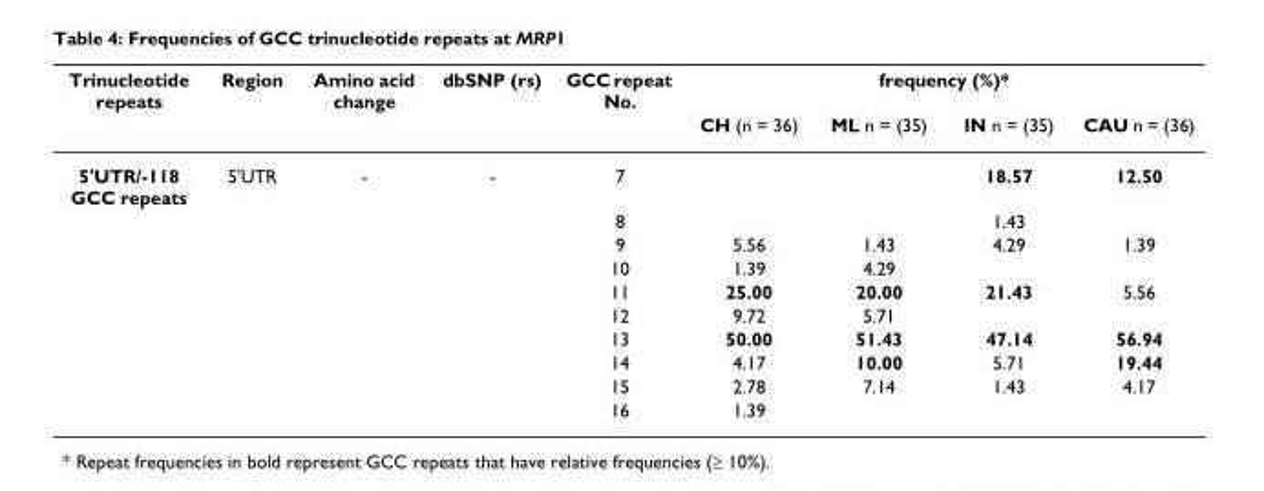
<table><thead><tr><td rowspan="2">Trinucleotide repeats</td><td rowspan="2">Region</td><td rowspan="2">Amino acid change</td><td rowspan="2">dbSNP (rs)</td><td rowspan="2">GCC repeat No.</td><td colspan="4">frequency (%)*</td></tr><tr><td>CH (n = 36)</td><td>ML n = (35)</td><td>IN n = (35)</td><td>CAU n = (36)</td></tr></thead><tbody><tr><td rowspan="10">5&#x27;UTR/-118 GCC repeats</td><td>5&#x27;UTR</td><td>-</td><td>-</td><td>7</td><td></td><td></td><td>18.57</td><td>12.50</td></tr><tr><td></td><td></td><td></td><td>8</td><td></td><td></td><td>1.43</td><td></td></tr><tr><td></td><td></td><td></td><td>9</td><td>5.56</td><td>1.43</td><td>4.29</td><td>1.39</td></tr><tr><td></td><td></td><td></td><td>10</td><td>1.39</td><td>4.29</td><td></td><td></td></tr><tr><td></td><td></td><td></td><td>11</td><td>25.00</td><td>20.00</td><td>21.43</td><td>5.56</td></tr><tr><td></td><td></td><td></td><td>12</td><td>9.72</td><td>5.71</td><td></td><td></td></tr><tr><td></td><td></td><td></td><td>13</td><td>50.00</td><td>51.43</td><td>47.14</td><td>56.94</td></tr><tr><td></td><td></td><td></td><td>14</td><td>4.17</td><td>10.00</td><td>5.71</td><td>19.44</td></tr><tr><td></td><td></td><td></td><td>15</td><td>2.78</td><td>7.14</td><td>1.43</td><td>4.17</td></tr><tr><td></td><td></td><td></td><td>16</td><td>1.39</td><td></td><td></td><td></td></tr></tbody></table>